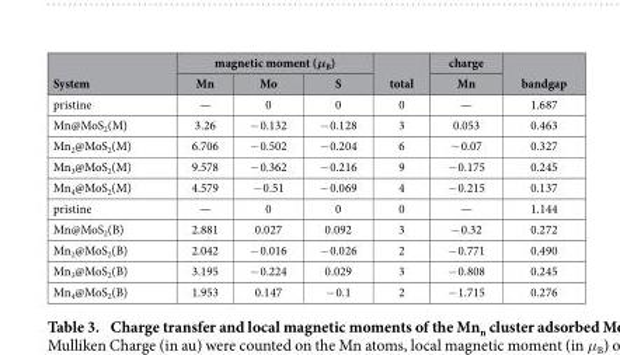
<table><thead><tr><td rowspan="2">System</td><td colspan="3">magnetic moment (μ<sub>B</sub>)</td><td rowspan="2">total</td><td rowspan="2">charge Mn</td><td rowspan="2">bandgap</td></tr><tr><td>Mn</td><td>Mo</td><td>S</td></tr></thead><tbody><tr><td>pristine</td><td>—</td><td>0</td><td>0</td><td>0</td><td>—</td><td>1.687</td></tr><tr><td>Mn@MoS<sub>2</sub>(M)</td><td>3.26</td><td>− 0.132</td><td>− 0.128</td><td>3</td><td>0.053</td><td>0.463</td></tr><tr><td>Mn<sub>2</sub>@MoS<sub>2</sub>(M)</td><td>6.706</td><td>− 0.502</td><td>− 0.204</td><td>6</td><td>− 0.07</td><td>0.327</td></tr><tr><td>Mn<sub>3</sub>@MoS<sub>2</sub>(M)</td><td>9.578</td><td>− 0.362</td><td>− 0.216</td><td>9</td><td>− 0.175</td><td>0.245</td></tr><tr><td>Mn<sub>4</sub>@MoS<sub>2</sub>(M)</td><td>4.579</td><td>− 0.51</td><td>− 0.069</td><td>4</td><td>− 0.215</td><td>0.137</td></tr><tr><td>pristine</td><td>—</td><td>0</td><td>0</td><td>0</td><td>—</td><td>1.144</td></tr><tr><td>Mn@MoS<sub>2</sub>(B)</td><td>2.881</td><td>0.027</td><td>0.092</td><td>3</td><td>− 0.32</td><td>0.272</td></tr><tr><td>Mn<sub>2</sub>@MoS<sub>2</sub>(B)</td><td>2.042</td><td>− 0.016</td><td>− 0.026</td><td>2</td><td>− 0.771</td><td>0.490</td></tr><tr><td>Mn<sub>3</sub>@MoS<sub>2</sub>(B)</td><td>3.195</td><td>− 0.224</td><td>0.029</td><td>3</td><td>− 0.808</td><td>0.245</td></tr><tr><td>Mn<sub>4</sub>@MoS<sub>2</sub>(B)</td><td>1.953</td><td>0.147</td><td>− 0.1</td><td>2</td><td>− 1.715</td><td>0.276</td></tr></tbody></table>